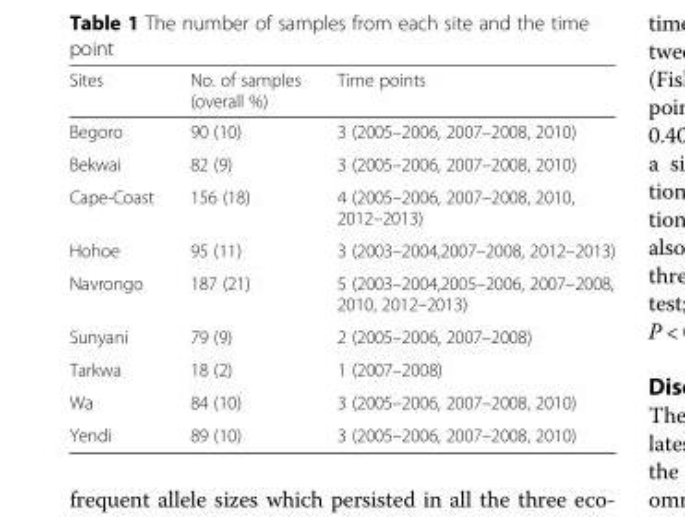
<table><thead><tr><td>Sites</td><td>No. of samples (overall %)</td><td>Time points</td></tr></thead><tbody><tr><td>Begoro</td><td>90 (10)</td><td>3 (2005–2006, 2007–2008, 2010)</td></tr><tr><td>Bekwai</td><td>82 (9)</td><td>3 (2005–2006, 2007–2008, 2010)</td></tr><tr><td>Cape-Coast</td><td>156 (18)</td><td>4 (2005–2006, 2007–2008, 2010, 2012–2013)</td></tr><tr><td>Hohoe</td><td>95 (11)</td><td>3 (2003–2004,2007–2008, 2012–2013)</td></tr><tr><td>Navrongo</td><td>187 (21)</td><td>5 (2003–2004,2005–2006, 2007–2008, 2010, 2012–2013)</td></tr><tr><td>Sunyani</td><td>79 (9)</td><td>2 (2005–2006, 2007–2008)</td></tr><tr><td>Tarkwa</td><td>18 (2)</td><td>1 (2007–2008)</td></tr><tr><td>Wa</td><td>84 (10)</td><td>3 (2005–2006, 2007–2008, 2010)</td></tr><tr><td>Yendi</td><td>89 (10)</td><td>3 (2005–2006, 2007–2008, 2010)</td></tr></tbody></table>